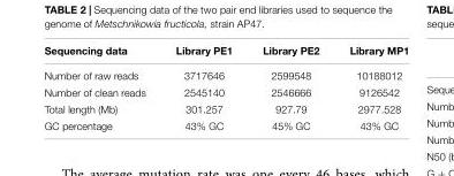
<table><thead><tr><td>Sequencing data</td><td>Library PE1</td><td>Library PE2</td><td>Library MP1</td></tr></thead><tbody><tr><td>Number of raw reads</td><td>3717646</td><td>2599548</td><td>10188012</td></tr><tr><td>Number of clean reads</td><td>2545140</td><td>2546666</td><td>9126542</td></tr><tr><td>Total length (Mb)</td><td>301.257</td><td>927.79</td><td>2977.528</td></tr><tr><td>GC percentage</td><td>43% GC</td><td>45% GC</td><td>43% GC</td></tr></tbody></table>